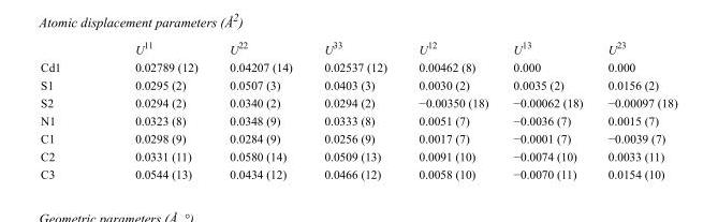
<table><thead><tr><td></td><td>U<sup>11</sup></td><td>U<sup>22</sup></td><td>U<sup>33</sup></td><td>U<sup>12</sup></td><td>U<sup>13</sup></td><td>U<sup>23</sup></td></tr></thead><tbody><tr><td>Cd1</td><td>0.02789 (12)</td><td>0.04207 (14)</td><td>0.02537 (12)</td><td>0.00462 (8)</td><td>0.000</td><td>0.000</td></tr><tr><td>S1</td><td>0.0295 (2)</td><td>0.0507 (3)</td><td>0.0403 (3)</td><td>0.0030 (2)</td><td>0.0035 (2)</td><td>0.0156 (2)</td></tr><tr><td>S2</td><td>0.0294 (2)</td><td>0.0340 (2)</td><td>0.0294 (2)</td><td>−0.00350 (18)</td><td>−0.00062 (18)</td><td>−0.00097 (18)</td></tr><tr><td>N1</td><td>0.0323 (8)</td><td>0.0348 (9)</td><td>0.0333 (8)</td><td>0.0051 (7)</td><td>−0.0036 (7)</td><td>0.0015 (7)</td></tr><tr><td>C1</td><td>0.0298 (9)</td><td>0.0284 (9)</td><td>0.0256 (9)</td><td>0.0017 (7)</td><td>−0.0001 (7)</td><td>−0.0039 (7)</td></tr><tr><td>C2</td><td>0.0331 (11)</td><td>0.0580 (14)</td><td>0.0509 (13)</td><td>0.0091 (10)</td><td>−0.0074 (10)</td><td>0.0033 (11)</td></tr><tr><td>C3</td><td>0.0544 (13)</td><td>0.0434 (12)</td><td>0.0466 (12)</td><td>0.0058 (10)</td><td>−0.0070 (11)</td><td>0.0154 (10)</td></tr></tbody></table>